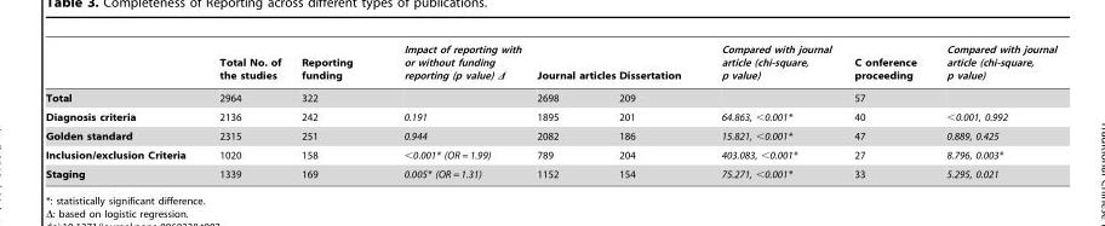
<table><thead><tr><td></td><td>Total No. of the studies</td><td>Reporting funding</td><td>Impact of reporting with or without funding reporting (p value) Δ</td><td>Journal articles</td><td>Dissertation</td><td>Compared with journal article (chi-square, p value)</td><td>C onference proceeding</td><td>Compared with journal article (chi-square, p value)</td></tr></thead><tbody><tr><td>Total</td><td>2964</td><td>322</td><td></td><td>2698</td><td>209</td><td></td><td>57</td><td></td></tr><tr><td>Diagnosis criteria</td><td>2136</td><td>242</td><td>0.191</td><td>1895</td><td>201</td><td>64.863, &lt;0.001*</td><td>40</td><td>&lt;0.001, 0.992</td></tr><tr><td>Golden standard</td><td>2315</td><td>251</td><td>0.944</td><td>2082</td><td>186</td><td>15.821, &lt;0.001*</td><td>47</td><td>0.889, 0.425</td></tr><tr><td>Inclusion/exclusion Criteria</td><td>1020</td><td>158</td><td>&lt;0.001* (OR = 1.99)</td><td>789</td><td>204</td><td>403.083, &lt;0.001*</td><td>27</td><td>8.796, 0.003*</td></tr><tr><td>Staging</td><td>1339</td><td>169</td><td>0.005* (OR = 1.31)</td><td>1152</td><td>154</td><td>75.271, &lt;0.001*</td><td>33</td><td>5.295, 0.021</td></tr></tbody></table>